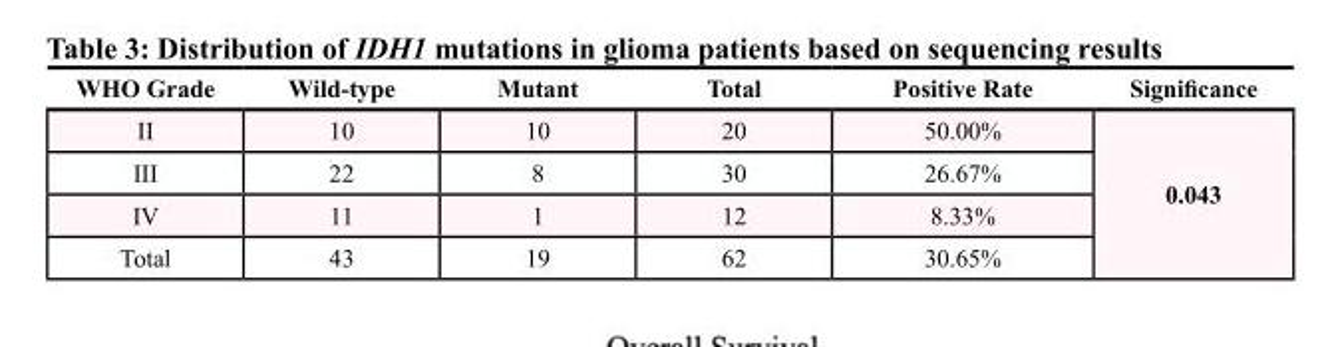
<table><thead><tr><td>WHO Grade</td><td>Wild-type</td><td>Mutant</td><td>Total</td><td>Positive Rate</td><td>Significance</td></tr></thead><tbody><tr><td>II</td><td>10</td><td>10</td><td>20</td><td>50.00%</td><td rowspan="4">0.043</td></tr><tr><td>III</td><td>22</td><td>8</td><td>30</td><td>26.67%</td></tr><tr><td>IV</td><td>11</td><td>1</td><td>12</td><td>8.33%</td></tr><tr><td>Total</td><td>43</td><td>19</td><td>62</td><td>30.65%</td></tr></tbody></table>